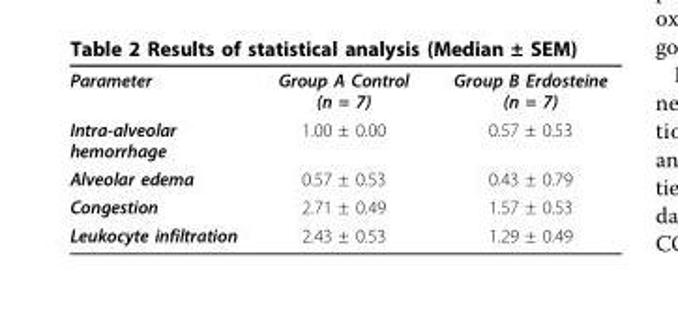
<table><tbody><tr><td>Parameter</td><td>Group A Control (n = 7)</td><td>Group B Erdosteine (n = 7)</td></tr><tr><td>Intra-alveolar hemorrhage</td><td>1.00 ± 0.00</td><td>0.57 ± 0.53</td></tr><tr><td>Alveolar edema</td><td>0.57 ± 0.53</td><td>0.43 ± 0.79</td></tr><tr><td>Congestion</td><td>2.71 ± 0.49</td><td>1.57 ± 0.53</td></tr><tr><td>Leukocyte infiltration</td><td>2.43 ± 0.53</td><td>1.29 ± 0.49</td></tr></tbody></table>